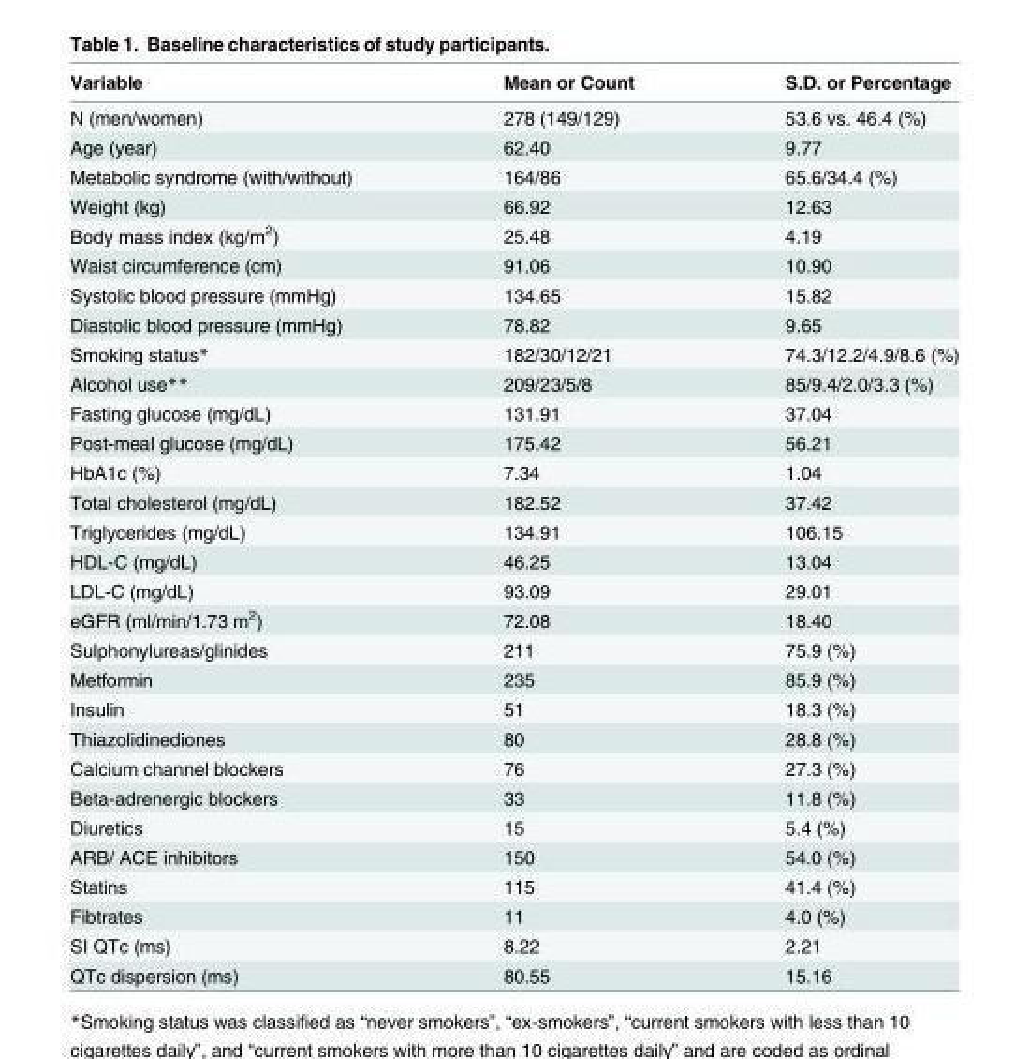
<table><thead><tr><td>Variable</td><td>Mean or Count</td><td>S.D. or Percentage</td></tr></thead><tbody><tr><td>N (men/women)</td><td>278 (149/129)</td><td>53.6 vs. 46.4 (%)</td></tr><tr><td>Age (year)</td><td>62.40</td><td>9.77</td></tr><tr><td>Metabolic syndrome (with/without)</td><td>164/86</td><td>65.6/34.4 (%)</td></tr><tr><td>Weight (kg)</td><td>66.92</td><td>12.63</td></tr><tr><td>Body mass index (kg/m<sup>2</sup>)</td><td>25.48</td><td>4.19</td></tr><tr><td>Waist circumference (cm)</td><td>91.06</td><td>10.90</td></tr><tr><td>Systolic blood pressure (mmHg)</td><td>134.65</td><td>15.82</td></tr><tr><td>Diastolic blood pressure (mmHg)</td><td>78.82</td><td>9.65</td></tr><tr><td>Smoking status*</td><td>182/30/12/21</td><td>74.3/12.2/4.9/8.6 (%)</td></tr><tr><td>Alcohol use**</td><td>209/23/5/8</td><td>85/9.4/2.0/3.3 (%)</td></tr><tr><td>Fasting glucose (mg/dL)</td><td>131.91</td><td>37.04</td></tr><tr><td>Post-meal glucose (mg/dL)</td><td>175.42</td><td>56.21</td></tr><tr><td>HbA1c (%)</td><td>7.34</td><td>1.04</td></tr><tr><td>Total cholesterol (mg/dL)</td><td>182.52</td><td>37.42</td></tr><tr><td>Triglycerides (mg/dL)</td><td>134.91</td><td>106.15</td></tr><tr><td>HDL-C (mg/dL)</td><td>46.25</td><td>13.04</td></tr><tr><td>LDL-C (mg/dL)</td><td>93.09</td><td>29.01</td></tr><tr><td>eGFR (ml/min/1.73 m<sup>2</sup>)</td><td>72.08</td><td>18.40</td></tr><tr><td>Sulphonylureas/glinides</td><td>211</td><td>75.9 (%)</td></tr><tr><td>Metformin</td><td>235</td><td>85.9 (%)</td></tr><tr><td>Insulin</td><td>51</td><td>18.3 (%)</td></tr><tr><td>Thiazolidinediones</td><td>80</td><td>28.8 (%)</td></tr><tr><td>Calcium channel blockers</td><td>76</td><td>27.3 (%)</td></tr><tr><td>Beta-adrenergic blockers</td><td>33</td><td>11.8 (%)</td></tr><tr><td>Diuretics</td><td>15</td><td>5.4 (%)</td></tr><tr><td>ARB/ ACE inhibitors</td><td>150</td><td>54.0 (%)</td></tr><tr><td>Statins</td><td>115</td><td>41.4 (%)</td></tr><tr><td>Fibtrates</td><td>11</td><td>4.0 (%)</td></tr><tr><td>SI QTc (ms)</td><td>8.22</td><td>2.21</td></tr><tr><td>QTc dispersion (ms)</td><td>80.55</td><td>15.16</td></tr></tbody></table>